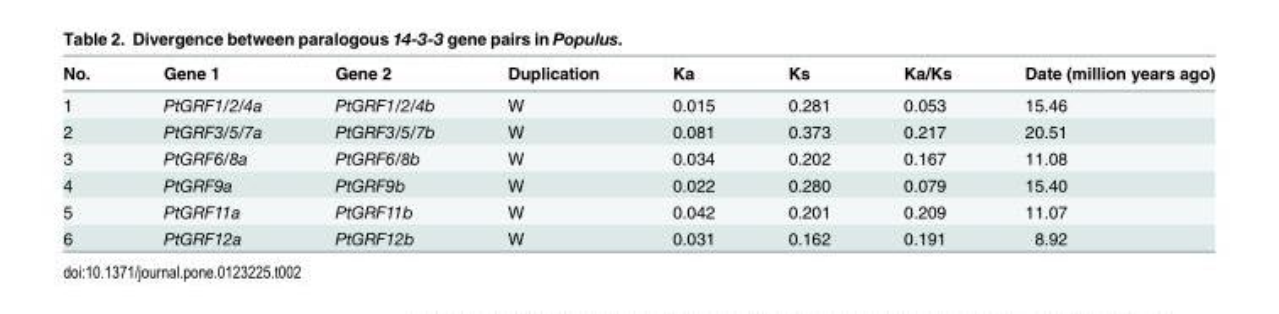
<table><thead><tr><td>No.</td><td>Gene 1</td><td>Gene 2</td><td>Duplication</td><td>Ka</td><td>Ks</td><td>Ka/Ks</td><td>Date (million years ago)</td></tr></thead><tbody><tr><td>1</td><td>PtGRF1/2/4a</td><td>PtGRF1/2/4b</td><td>W</td><td>0.015</td><td>0.281</td><td>0.053</td><td>15.46</td></tr><tr><td>2</td><td>PtGRF3/5/7a</td><td>PtGRF3/5/7b</td><td>W</td><td>0.081</td><td>0.373</td><td>0.217</td><td>20.51</td></tr><tr><td>3</td><td>PtGRF6/8a</td><td>PtGRF6/8b</td><td>W</td><td>0.034</td><td>0.202</td><td>0.167</td><td>11.08</td></tr><tr><td>4</td><td>PtGRF9a</td><td>PtGRF9b</td><td>W</td><td>0.022</td><td>0.280</td><td>0.079</td><td>15.40</td></tr><tr><td>5</td><td>PtGRF11a</td><td>PtGRF11b</td><td>W</td><td>0.042</td><td>0.201</td><td>0.209</td><td>11.07</td></tr><tr><td>6</td><td>PtGRF12a</td><td>PtGRF12b</td><td>W</td><td>0.031</td><td>0.162</td><td>0.191</td><td>8.92</td></tr></tbody></table>